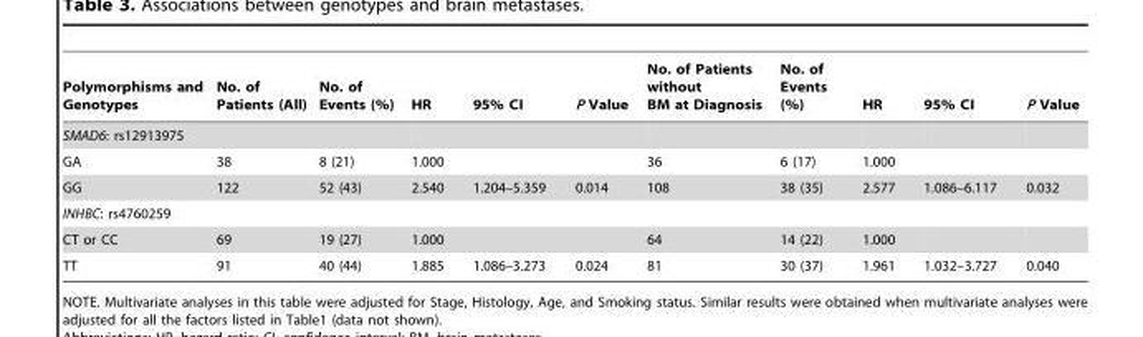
<table><thead><tr><td>Polymorphisms and Genotypes</td><td>No. of Patients (All)</td><td>No. of Events (%)</td><td>HR</td><td>95% CI</td><td>P Value</td><td>No. of Patients without BM at Diagnosis</td><td>No. of Events (%)</td><td>HR</td><td>95% CI</td><td>P Value</td></tr></thead><tbody><tr><td colspan="11">SMAD6: rs12913975</td></tr><tr><td>GA</td><td>38</td><td>8 (21)</td><td>1.000</td><td></td><td></td><td>36</td><td>6 (17)</td><td>1.000</td><td></td><td></td></tr><tr><td>GG</td><td>122</td><td>52 (43)</td><td>2.540</td><td>1.204–5.359</td><td>0.014</td><td>108</td><td>38 (35)</td><td>2.577</td><td>1.086–6.117</td><td>0.032</td></tr><tr><td colspan="11">INHBC: rs4760259</td></tr><tr><td>CT or CC</td><td>69</td><td>19 (27)</td><td>1.000</td><td></td><td></td><td>64</td><td>14 (22)</td><td>1.000</td><td></td><td></td></tr><tr><td>TT</td><td>91</td><td>40 (44)</td><td>1.885</td><td>1.086–3.273</td><td>0.024</td><td>81</td><td>30 (37)</td><td>1.961</td><td>1.032–3.727</td><td>0.040</td></tr></tbody></table>